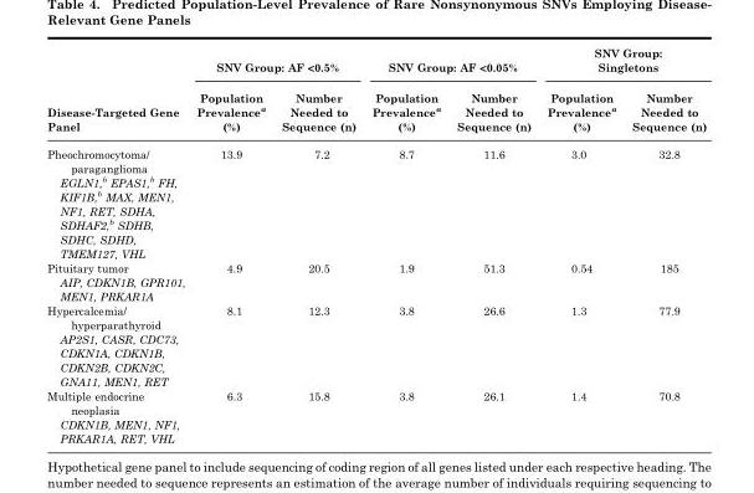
<table><thead><tr><td rowspan="2">Disease-Targeted Gene Panel</td><td colspan="2">SNV Group: AF &lt;0.5%</td><td colspan="2">SNV Group: AF &lt;0.05%</td><td colspan="2">SNV Group: Singletons</td></tr><tr><td>Population Prevalence<sup>a</sup> (%)</td><td>Number Needed to Sequence (n)</td><td>Population Prevalence<sup>a</sup> (%)</td><td>Number Needed to Sequence (n)</td><td>Population Prevalence<sup>a</sup> (%)</td><td>Number Needed to Sequence (n)</td></tr></thead><tbody><tr><td>Pheochromocytoma/ paraganglioma EGLN1,<sup>b</sup> EPAS1,<sup>b</sup> FH, KIF1B,<sup>b</sup> MAX, MEN1, NF1, RET, SDHA, SDHAF2,<sup>b</sup> SDHB, SDHC, SDHD, TMEM127, VHL</td><td>13.9</td><td>7.2</td><td>8.7</td><td>11.6</td><td>3.0</td><td>32.8</td></tr><tr><td>Pituitary tumor AIP, CDKN1B, GPR101, MEN1, PRKAR1A</td><td>4.9</td><td>20.5</td><td>1.9</td><td>51.3</td><td>0.54</td><td>185</td></tr><tr><td>Hypercalcemia/ hyperparathyroid AP2S1, CASR, CDC73, CDKN1A, CDKN1B, CDKN2B, CDKN2C, GNA11, MEN1, RET</td><td>8.1</td><td>12.3</td><td>3.8</td><td>26.6</td><td>1.3</td><td>77.9</td></tr><tr><td>Multiple endocrine neoplasia CDKN1B, MEN1, NF1, PRKAR1A, RET, VHL</td><td>6.3</td><td>15.8</td><td>3.8</td><td>26.1</td><td>1.4</td><td>70.8</td></tr></tbody></table>